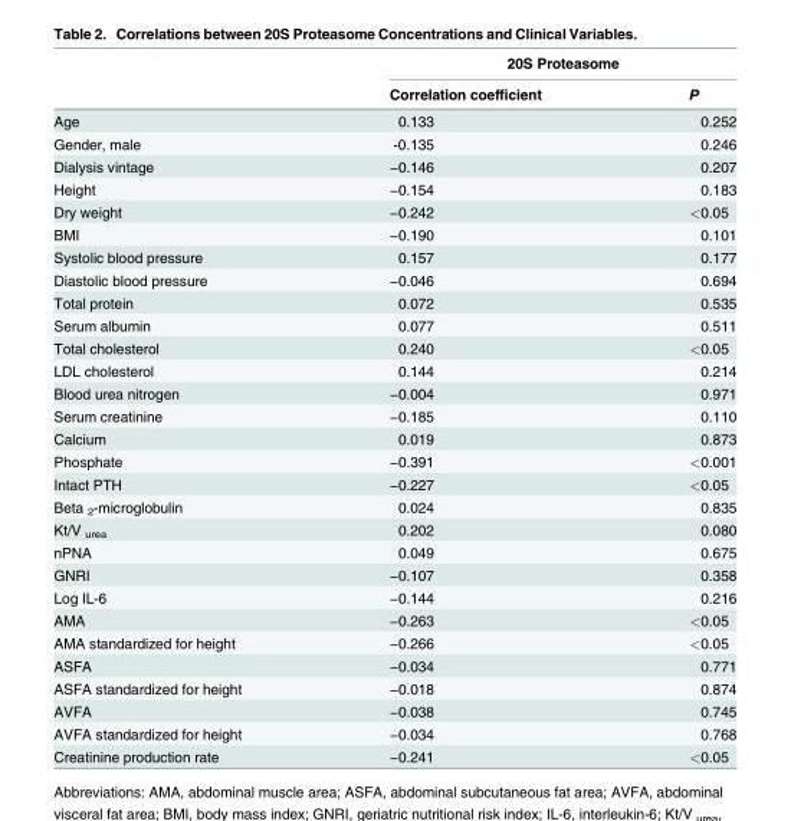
<table><thead><tr><td rowspan="2"></td><td colspan="2">20S Proteasome</td></tr><tr><td>Correlation coefficient</td><td>P</td></tr></thead><tbody><tr><td>Age</td><td>0.133</td><td>0.252</td></tr><tr><td>Gender, male</td><td>-0.135</td><td>0.246</td></tr><tr><td>Dialysis vintage</td><td>−0.146</td><td>0.207</td></tr><tr><td>Height</td><td>−0.154</td><td>0.183</td></tr><tr><td>Dry weight</td><td>−0.242</td><td>&lt;0.05</td></tr><tr><td>BMI</td><td>−0.190</td><td>0.101</td></tr><tr><td>Systolic blood pressure</td><td>0.157</td><td>0.177</td></tr><tr><td>Diastolic blood pressure</td><td>−0.046</td><td>0.694</td></tr><tr><td>Total protein</td><td>0.072</td><td>0.535</td></tr><tr><td>Serum albumin</td><td>0.077</td><td>0.511</td></tr><tr><td>Total cholesterol</td><td>0.240</td><td>&lt;0.05</td></tr><tr><td>LDL cholesterol</td><td>0.144</td><td>0.214</td></tr><tr><td>Blood urea nitrogen</td><td>−0.004</td><td>0.971</td></tr><tr><td>Serum creatinine</td><td>−0.185</td><td>0.110</td></tr><tr><td>Calcium</td><td>0.019</td><td>0.873</td></tr><tr><td>Phosphate</td><td>−0.391</td><td>&lt;0.001</td></tr><tr><td>Intact PTH</td><td>−0.227</td><td>&lt;0.05</td></tr><tr><td>Beta <sub>2</sub>-microglobulin</td><td>0.024</td><td>0.835</td></tr><tr><td>Kt/V <sub>urea</sub></td><td>0.202</td><td>0.080</td></tr><tr><td>nPNA</td><td>0.049</td><td>0.675</td></tr><tr><td>GNRI</td><td>−0.107</td><td>0.358</td></tr><tr><td>Log IL-6</td><td>−0.144</td><td>0.216</td></tr><tr><td>AMA</td><td>−0.263</td><td>&lt;0.05</td></tr><tr><td>AMA standardized for height</td><td>−0.266</td><td>&lt;0.05</td></tr><tr><td>ASFA</td><td>−0.034</td><td>0.771</td></tr><tr><td>ASFA standardized for height</td><td>−0.018</td><td>0.874</td></tr><tr><td>AVFA</td><td>−0.038</td><td>0.745</td></tr><tr><td>AVFA standardized for height</td><td>−0.034</td><td>0.768</td></tr><tr><td>Creatinine production rate</td><td>−0.241</td><td>&lt;0.05</td></tr></tbody></table>